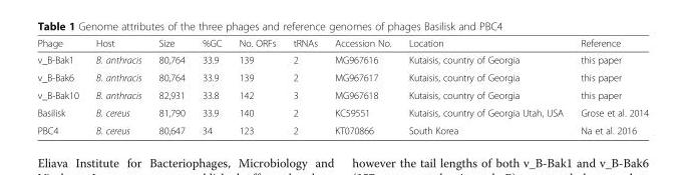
<table><thead><tr><td>Phage</td><td>Host</td><td>Size</td><td>%GC</td><td>No. ORFs</td><td>tRNAs</td><td>Accession No.</td><td>Location</td><td>Reference</td></tr></thead><tbody><tr><td>v_B-Bak1</td><td>B. anthracis</td><td>80,764</td><td>33.9</td><td>139</td><td>2</td><td>MG967616</td><td>Kutaisis, country of Georgia</td><td>this paper</td></tr><tr><td>v_B-Bak6</td><td>B. anthracis</td><td>80,764</td><td>33.9</td><td>139</td><td>2</td><td>MG967617</td><td>Kutaisis, country of Georgia</td><td>this paper</td></tr><tr><td>v_B-Bak10</td><td>B. anthracis</td><td>82,931</td><td>33.8</td><td>142</td><td>3</td><td>MG967618</td><td>Kutaisis, country of Georgia</td><td>this paper</td></tr><tr><td>Basilisk</td><td>B. cereus</td><td>81,790</td><td>33.9</td><td>140</td><td>2</td><td>KC59551</td><td>Kutaisis, country of Georgia Utah, USA</td><td>Grose et al. 2014</td></tr><tr><td>PBC4</td><td>B. cereus</td><td>80,647</td><td>34</td><td>123</td><td>2</td><td>KT070866</td><td>South Korea</td><td>Na et al. 2016</td></tr></tbody></table>